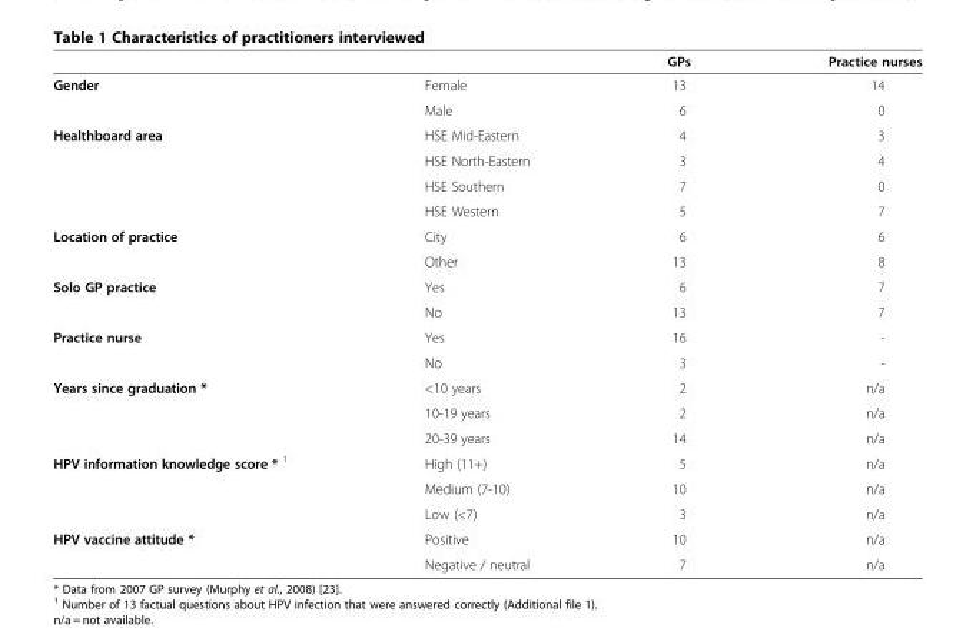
<table><thead><tr><td></td><td></td><td>GPs</td><td>Practice nurses</td></tr></thead><tbody><tr><td rowspan="2">Gender</td><td>Female</td><td>13</td><td>14</td></tr><tr><td>Male</td><td>6</td><td>0</td></tr><tr><td rowspan="4">Healthboard area</td><td>HSE Mid-Eastern</td><td>4</td><td>3</td></tr><tr><td>HSE North-Eastern</td><td>3</td><td>4</td></tr><tr><td>HSE Southern</td><td>7</td><td>0</td></tr><tr><td>HSE Western</td><td>5</td><td>7</td></tr><tr><td rowspan="2">Location of practice</td><td>City</td><td>6</td><td>6</td></tr><tr><td>Other</td><td>13</td><td>8</td></tr><tr><td rowspan="2">Solo GP practice</td><td>Yes</td><td>6</td><td>7</td></tr><tr><td>No</td><td>13</td><td>7</td></tr><tr><td rowspan="2">Practice nurse</td><td>Yes</td><td>16</td><td>-</td></tr><tr><td>No</td><td>3</td><td>-</td></tr><tr><td rowspan="3">Years since graduation *</td><td>&lt;10 years</td><td>2</td><td>n/a</td></tr><tr><td>10-19 years</td><td>2</td><td>n/a</td></tr><tr><td>20-39 years</td><td>14</td><td>n/a</td></tr><tr><td rowspan="3">HPV information knowledge score * <sup>1</sup></td><td>High (11+)</td><td>5</td><td>n/a</td></tr><tr><td>Medium (7-10)</td><td>10</td><td>n/a</td></tr><tr><td>Low (&lt;7)</td><td>3</td><td>n/a</td></tr><tr><td rowspan="2">HPV vaccine attitude *</td><td>Positive</td><td>10</td><td>n/a</td></tr><tr><td>Negative / neutral</td><td>7</td><td>n/a</td></tr></tbody></table>